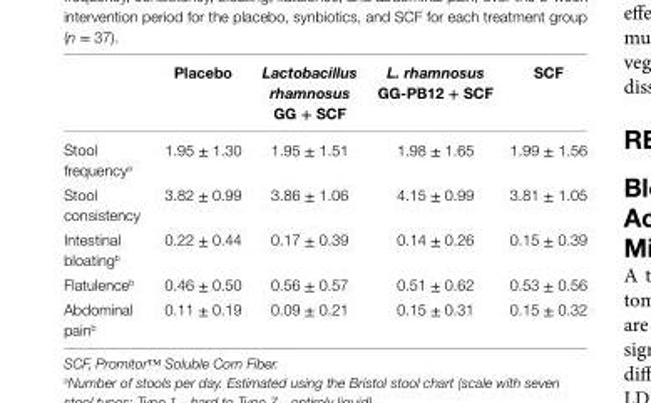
<table><thead><tr><td></td><td>Placebo</td><td>Lactobacillus rhamnosus GG + SCF</td><td>L. rhamnosus GG-PB12 + SCF</td><td>SCF</td></tr></thead><tbody><tr><td>Stool frequency<sup>a</sup></td><td>1.95 ± 1.30</td><td>1.95 ± 1.51</td><td>1.98 ± 1.65</td><td>1.99 ± 1.56</td></tr><tr><td>Stool consistency</td><td>3.82 ± 0.99</td><td>3.86 ± 1.06</td><td>4.15 ± 0.99</td><td>3.81 ± 1.05</td></tr><tr><td>Intestinal bloating<sup>b</sup></td><td>0.22 ± 0.44</td><td>0.17 ± 0.39</td><td>0.14 ± 0.26</td><td>0.15 ± 0.39</td></tr><tr><td>Flatulence<sup>b</sup></td><td>0.46 ± 0.50</td><td>0.56 ± 0.57</td><td>0.51 ± 0.62</td><td>0.53 ± 0.56</td></tr><tr><td>Abdominal pain<sup>b</sup></td><td>0.11 ± 0.19</td><td>0.09 ± 0.21</td><td>0.15 ± 0.31</td><td>0.15 ± 0.32</td></tr></tbody></table>